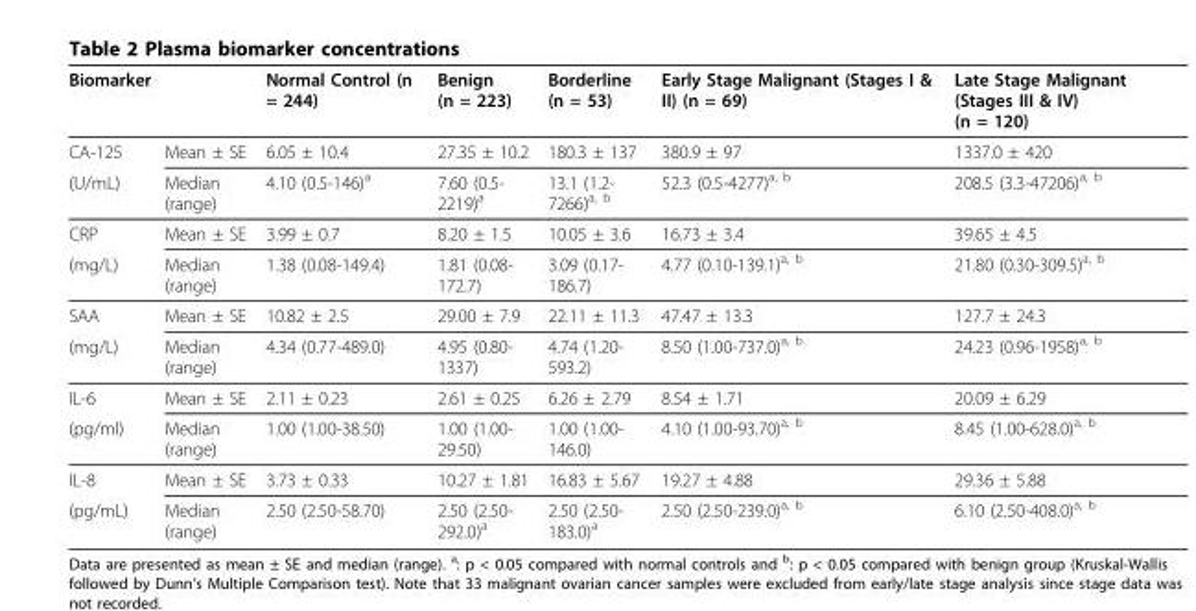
<table><thead><tr><td>Biomarker</td><td></td><td>Normal Control (n = 244)</td><td>Benign (n = 223)</td><td>Borderline (n = 53)</td><td>Early Stage Malignant (Stages I &amp; II) (n = 69)</td><td>Late Stage Malignant (Stages III &amp; IV) (n = 120)</td></tr></thead><tbody><tr><td>CA-125</td><td>Mean ± SE</td><td>6.05 ± 10.4</td><td>27.35 ± 10.2</td><td>180.3 ± 137</td><td>380.9 ± 97</td><td>1337.0 ± 420</td></tr><tr><td>(U/mL)</td><td>Median (range)</td><td>4.10 (0.5-146)<sup>a</sup></td><td>7.60 (0.5- 2219)<sup>a</sup></td><td>13.1 (1.2- 7266)<sup>a, b</sup></td><td>52.3 (0.5-4277)<sup>a, b</sup></td><td>208.5 (3.3-47206)<sup>a, b</sup></td></tr><tr><td>CRP</td><td>Mean ± SE</td><td>3.99 ± 0.7</td><td>8.20 ± 1.5</td><td>10.05 ± 3.6</td><td>16.73 ± 3.4</td><td>39.65 ± 4.5</td></tr><tr><td>(mg/L)</td><td>Median (range)</td><td>1.38 (0.08-149.4)</td><td>1.81 (0.08- 172.7)</td><td>3.09 (0.17- 186.7)</td><td>4.77 (0.10-139.1)<sup>a, b</sup></td><td>21.80 (0.30-309.5)<sup>a, b</sup></td></tr><tr><td>SAA</td><td>Mean ± SE</td><td>10.82 ± 2.5</td><td>29.00 ± 7.9</td><td>22.11 ± 11.3</td><td>47.47 ± 13.3</td><td>127.7 ± 24.3</td></tr><tr><td>(mg/L)</td><td>Median (range)</td><td>4.34 (0.77-489.0)</td><td>4.95 (0.80- 1337)</td><td>4.74 (1.20- 593.2)</td><td>8.50 (1.00-737.0)<sup>a, b</sup></td><td>24.23 (0.96-1958)<sup>a, b</sup></td></tr><tr><td>IL-6</td><td>Mean ± SE</td><td>2.11 ± 0.23</td><td>2.61 ± 0.25</td><td>6.26 ± 2.79</td><td>8.54 ± 1.71</td><td>20.09 ± 6.29</td></tr><tr><td>(pg/ml)</td><td>Median (range)</td><td>1.00 (1.00-38.50)</td><td>1.00 (1.00- 29.50)</td><td>1.00 (1.00- 146.0)</td><td>4.10 (1.00-93.70)<sup>a, b</sup></td><td>8.45 (1.00-628.0)<sup>a, b</sup></td></tr><tr><td>IL-8</td><td>Mean ± SE</td><td>3.73 ± 0.33</td><td>10.27 ± 1.81</td><td>16.83 ± 5.67</td><td>19.27 ± 4.88</td><td>29.36 ± 5.88</td></tr><tr><td>(pg/mL)</td><td>Median (range)</td><td>2.50 (2.50-58.70)</td><td>2.50 (2.50- 292.0)<sup>a</sup></td><td>2.50 (2.50- 183.0)<sup>a</sup></td><td>2.50 (2.50-239.0)<sup>a, b</sup></td><td>6.10 (2.50-408.0)<sup>a, b</sup></td></tr></tbody></table>